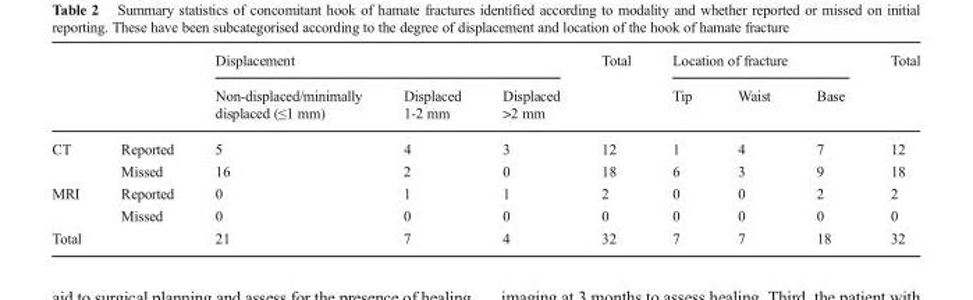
<table><thead><tr><td rowspan="2"></td><td rowspan="2"></td><td colspan="3">Displacement</td><td rowspan="2">Total</td><td colspan="3">Location of fracture</td><td rowspan="2">Total</td></tr><tr><td>Non-displaced/minimally displaced (≤1 mm)</td><td>Displaced 1-2 mm</td><td>Displaced &gt;2 mm</td><td>Tip</td><td>Waist</td><td>Base</td></tr></thead><tbody><tr><td rowspan="2">CT</td><td>Reported</td><td>5</td><td>4</td><td>3</td><td>12</td><td>1</td><td>4</td><td>7</td><td>12</td></tr><tr><td>Missed</td><td>16</td><td>2</td><td>0</td><td>18</td><td>6</td><td>3</td><td>9</td><td>18</td></tr><tr><td rowspan="2">MRI</td><td>Reported</td><td>0</td><td>1</td><td>1</td><td>2</td><td>0</td><td>0</td><td>2</td><td>2</td></tr><tr><td>Missed</td><td>0</td><td>0</td><td>0</td><td>0</td><td>0</td><td>0</td><td>0</td><td>0</td></tr><tr><td colspan="2">Total</td><td>21</td><td>7</td><td>4</td><td>32</td><td>7</td><td>7</td><td>18</td><td>32</td></tr></tbody></table>